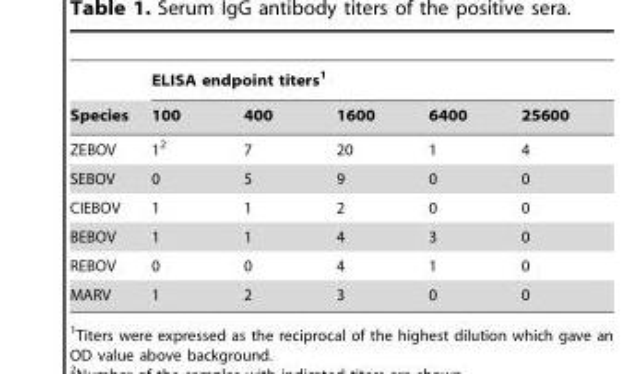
<table><thead><tr><td rowspan="2">Species</td><td colspan="5">ELISA endpoint titers<sup>1</sup></td></tr><tr><td>100</td><td>400</td><td>1600</td><td>6400</td><td>25600</td></tr></thead><tbody><tr><td>ZEBOV</td><td>1<sup>2</sup></td><td>7</td><td>20</td><td>1</td><td>4</td></tr><tr><td>SEBOV</td><td>0</td><td>5</td><td>9</td><td>0</td><td>0</td></tr><tr><td>CIEBOV</td><td>1</td><td>1</td><td>2</td><td>0</td><td>0</td></tr><tr><td>BEBOV</td><td>1</td><td>1</td><td>4</td><td>3</td><td>0</td></tr><tr><td>REBOV</td><td>0</td><td>0</td><td>4</td><td>1</td><td>0</td></tr><tr><td>MARV</td><td>1</td><td>2</td><td>3</td><td>0</td><td>0</td></tr></tbody></table>